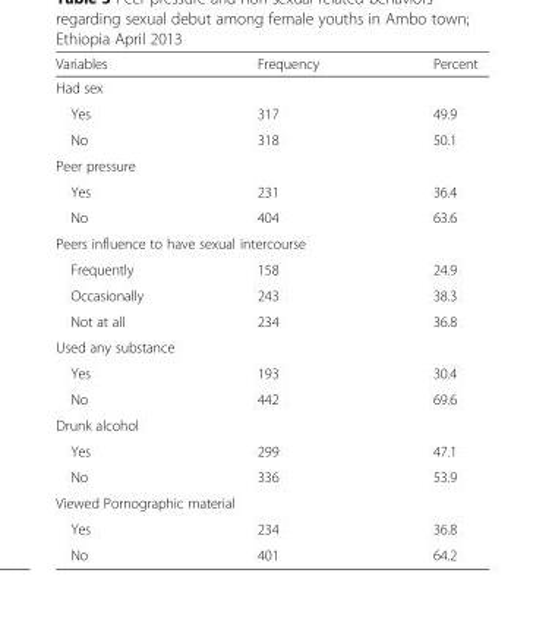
<table><thead><tr><td>Variables</td><td>Frequency</td><td>Percent</td></tr></thead><tbody><tr><td colspan="3">Had sex</td></tr><tr><td>Yes</td><td>317</td><td>49.9</td></tr><tr><td>No</td><td>318</td><td>50.1</td></tr><tr><td colspan="3">Peer pressure</td></tr><tr><td>Yes</td><td>231</td><td>36.4</td></tr><tr><td>No</td><td>404</td><td>63.6</td></tr><tr><td colspan="3">Peers influence to have sexual intercourse</td></tr><tr><td>Frequently</td><td>158</td><td>24.9</td></tr><tr><td>Occasionally</td><td>243</td><td>38.3</td></tr><tr><td>Not at all</td><td>234</td><td>36.8</td></tr><tr><td colspan="3">Used any substance</td></tr><tr><td>Yes</td><td>193</td><td>30.4</td></tr><tr><td>No</td><td>442</td><td>69.6</td></tr><tr><td colspan="3">Drunk alcohol</td></tr><tr><td>Yes</td><td>299</td><td>47.1</td></tr><tr><td>No</td><td>336</td><td>53.9</td></tr><tr><td colspan="3">Viewed Pornographic material</td></tr><tr><td>Yes</td><td>234</td><td>36.8</td></tr><tr><td>No</td><td>401</td><td>64.2</td></tr></tbody></table>